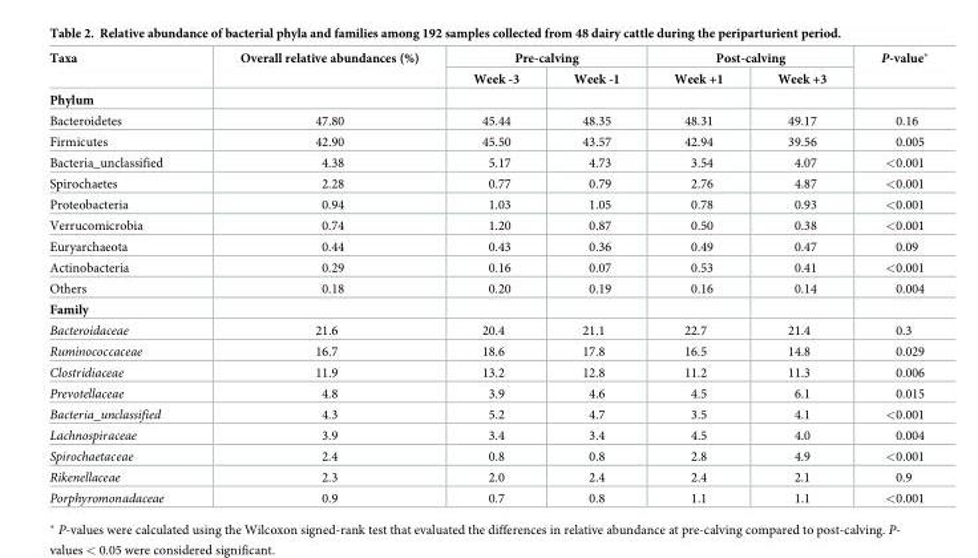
<table><thead><tr><td rowspan="2">Taxa</td><td rowspan="2">Overall relative abundances (%)</td><td colspan="2">Pre-calving</td><td colspan="2">Post-calving</td><td rowspan="2">P-value*</td></tr><tr><td>Week -3</td><td>Week -1</td><td>Week +1</td><td>Week +3</td></tr></thead><tbody><tr><td colspan="7">Phylum</td></tr><tr><td>Bacteroidetes</td><td>47.80</td><td>45.44</td><td>48.35</td><td>48.31</td><td>49.17</td><td>0.16</td></tr><tr><td>Firmicutes</td><td>42.90</td><td>45.50</td><td>43.57</td><td>42.94</td><td>39.56</td><td>0.005</td></tr><tr><td>Bacteria_unclassified</td><td>4.38</td><td>5.17</td><td>4.73</td><td>3.54</td><td>4.07</td><td>&lt;0.001</td></tr><tr><td>Spirochaetes</td><td>2.28</td><td>0.77</td><td>0.79</td><td>2.76</td><td>4.87</td><td>&lt;0.001</td></tr><tr><td>Proteobacteria</td><td>0.94</td><td>1.03</td><td>1.05</td><td>0.78</td><td>0.93</td><td>&lt;0.001</td></tr><tr><td>Verrucomicrobia</td><td>0.74</td><td>1.20</td><td>0.87</td><td>0.50</td><td>0.38</td><td>&lt;0.001</td></tr><tr><td>Euryarchaeota</td><td>0.44</td><td>0.43</td><td>0.36</td><td>0.49</td><td>0.47</td><td>0.09</td></tr><tr><td>Actinobacteria</td><td>0.29</td><td>0.16</td><td>0.07</td><td>0.53</td><td>0.41</td><td>&lt;0.001</td></tr><tr><td>Others</td><td>0.18</td><td>0.20</td><td>0.19</td><td>0.16</td><td>0.14</td><td>0.004</td></tr><tr><td colspan="7">Family</td></tr><tr><td>Bacteroidaceae</td><td>21.6</td><td>20.4</td><td>21.1</td><td>22.7</td><td>21.4</td><td>0.3</td></tr><tr><td>Ruminococcaceae</td><td>16.7</td><td>18.6</td><td>17.8</td><td>16.5</td><td>14.8</td><td>0.029</td></tr><tr><td>Clostridiaceae</td><td>11.9</td><td>13.2</td><td>12.8</td><td>11.2</td><td>11.3</td><td>0.006</td></tr><tr><td>Prevotellaceae</td><td>4.8</td><td>3.9</td><td>4.6</td><td>4.5</td><td>6.1</td><td>0.015</td></tr><tr><td>Bacteria_unclassified</td><td>4.3</td><td>5.2</td><td>4.7</td><td>3.5</td><td>4.1</td><td>&lt;0.001</td></tr><tr><td>Lachnospiraceae</td><td>3.9</td><td>3.4</td><td>3.4</td><td>4.5</td><td>4.0</td><td>0.004</td></tr><tr><td>Spirochaetaceae</td><td>2.4</td><td>0.8</td><td>0.8</td><td>2.8</td><td>4.9</td><td>&lt;0.001</td></tr><tr><td>Rikenellaceae</td><td>2.3</td><td>2.0</td><td>2.4</td><td>2.4</td><td>2.1</td><td>0.9</td></tr><tr><td>Porphyromonadaceae</td><td>0.9</td><td>0.7</td><td>0.8</td><td>1.1</td><td>1.1</td><td>&lt;0.001</td></tr></tbody></table>